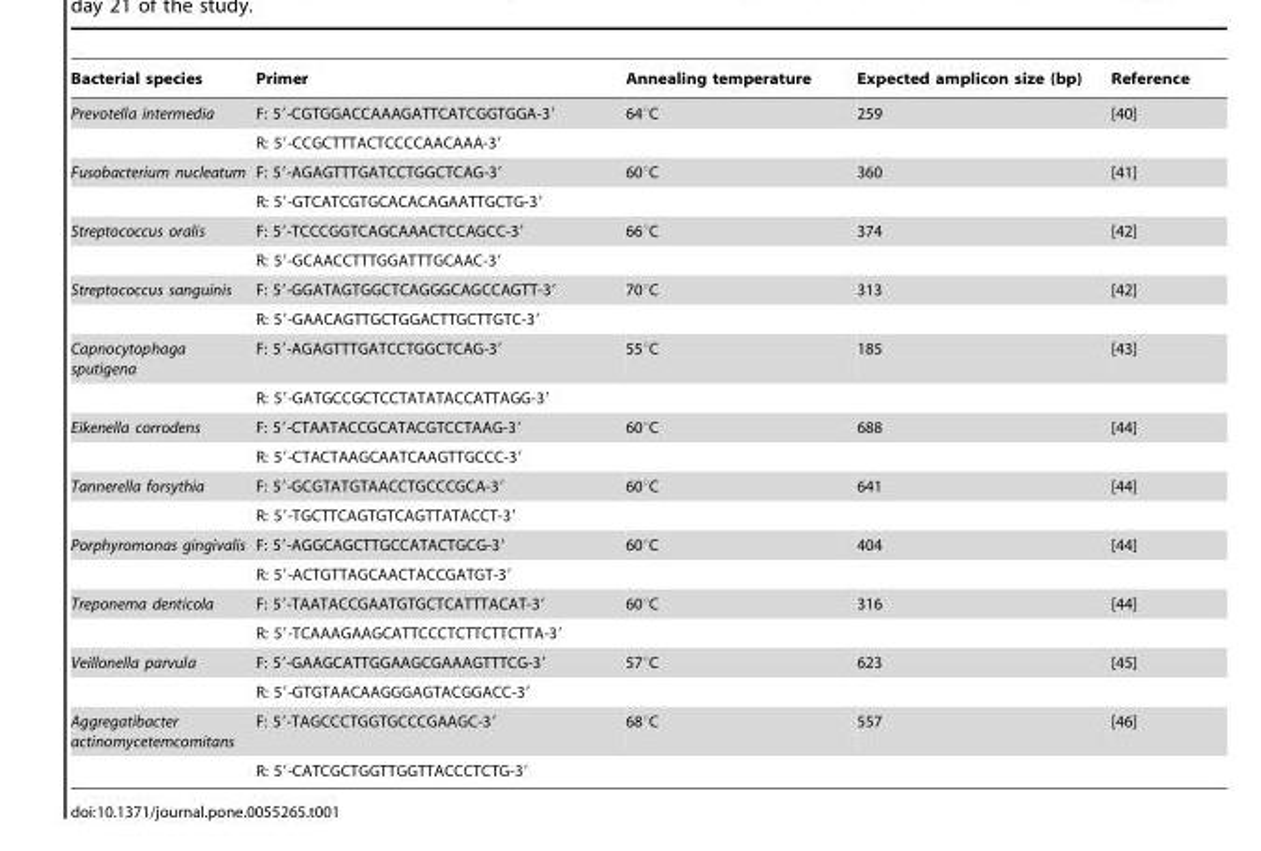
<table><thead><tr><td>Bacterial species</td><td>Primer</td><td>Annealing temperature</td><td>Expected amplicon size (bp)</td><td>Reference</td></tr></thead><tbody><tr><td rowspan="2">Prevotella intermedia</td><td>F: 5′-CGTGGACCAAAGATTCATCGGTGGA-3′</td><td>64°C</td><td>259</td><td>[40]</td></tr><tr><td>R: 5′-CCGCTTTACTCCCCAACAAA-3′</td><td></td><td></td><td></td></tr><tr><td rowspan="2">Fusobacterium nucleatum</td><td>F: 5′-AGAGTTTGATCCTGGCTCAG-3′</td><td>60°C</td><td>360</td><td>[41]</td></tr><tr><td>R: 5′-GTCATCGTGCACACAGAATTGCTG-3′</td><td></td><td></td><td></td></tr><tr><td rowspan="2">Streptococcus oralis</td><td>F: 5′-TCCCGGTCAGCAAACTCCAGCC-3′</td><td>66°C</td><td>374</td><td>[42]</td></tr><tr><td>R: 5′-GCAACCTTTGGATTTGCAAC-3′</td><td></td><td></td><td></td></tr><tr><td rowspan="2">Streptococcus sanguinis</td><td>F: 5′-GGATAGTGGCTCAGGGCAGCCAGTT-3′</td><td>70°C</td><td>313</td><td>[42]</td></tr><tr><td>R: 5′-GAACAGTTGCTGGACTTGCTTGTC-3′</td><td></td><td></td><td></td></tr><tr><td rowspan="2">Capnocytophaga sputigena</td><td>F: 5′-AGAGTTTGATCCTGGCTCAG-3′</td><td>55°C</td><td>185</td><td>[43]</td></tr><tr><td>R: 5′-GATGCCGCTCCTATATACCATTAGG-3′</td><td></td><td></td><td></td></tr><tr><td rowspan="2">Eikenella corrodens</td><td>F: 5′-CTAATACCGCATACGTCCTAAG-3′</td><td>60°C</td><td>688</td><td>[44]</td></tr><tr><td>R: 5′-CTACTAAGCAATCAAGTTGCCC-3′</td><td></td><td></td><td></td></tr><tr><td rowspan="2">Tannerella forsythia</td><td>F: 5′-GCGTATGTAACCTGCCCGCA-3′</td><td>60°C</td><td>641</td><td>[44]</td></tr><tr><td>R: 5′-TGCTTCAGTGTCAGTTATACCT-3′</td><td></td><td></td><td></td></tr><tr><td rowspan="2">Porphyromonas gingivalis</td><td>F: 5′-AGGCAGCTTGCCATACTGCG-3′</td><td>60°C</td><td>404</td><td>[44]</td></tr><tr><td>R: 5′-ACTGTTAGCAACTACCGATGT-3′</td><td></td><td></td><td></td></tr><tr><td rowspan="2">Treponema denticola</td><td>F: 5′-TAATACCGAATGTGCTCATTTACAT-3′</td><td>60°C</td><td>316</td><td>[44]</td></tr><tr><td>R: 5′-TCAAAGAAGCATTCCCTCTTCTTCTTA-3′</td><td></td><td></td><td></td></tr><tr><td rowspan="2">Veillonella parvula</td><td>F: 5′-GAAGCATTGGAAGCGAAAGTTTCG-3′</td><td>57°C</td><td>623</td><td>[45]</td></tr><tr><td>R: 5′-GTGTAACAAGGGAGTACGGACC-3′</td><td></td><td></td><td></td></tr><tr><td rowspan="2">Aggregatibacter actinomycetemcomitans</td><td>F: 5′-TAGCCCTGGTGCCCGAAGC-3′</td><td>68°C</td><td>557</td><td>[46]</td></tr><tr><td>R: 5′-CATCGCTGGTTGGTTACCCTCTG-3′</td><td></td><td></td><td></td></tr></tbody></table>